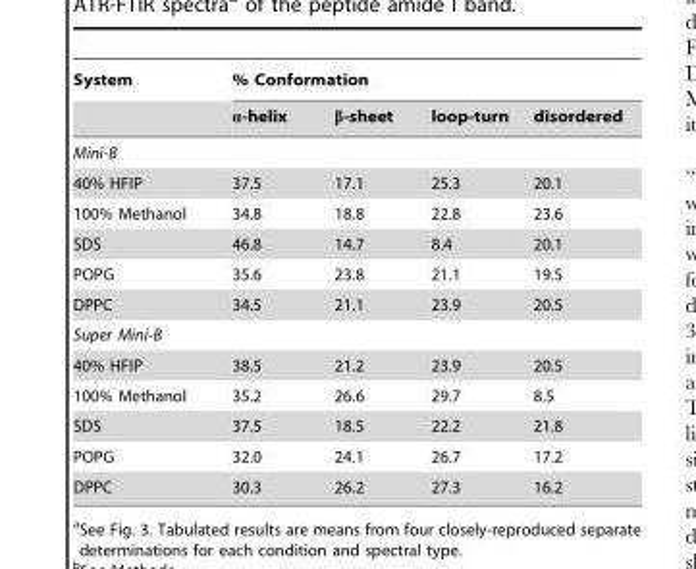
<table><thead><tr><td rowspan="2">System</td><td colspan="4">% Conformation</td></tr><tr><td>α-helix</td><td>β-sheet</td><td>loop-turn</td><td>disordered</td></tr></thead><tbody><tr><td colspan="5">Mini-B</td></tr><tr><td>40% HFIP</td><td>37.5</td><td>17.1</td><td>25.3</td><td>20.1</td></tr><tr><td>100% Methanol</td><td>34.8</td><td>18.8</td><td>22.8</td><td>23.6</td></tr><tr><td>SDS</td><td>46.8</td><td>14.7</td><td>8.4</td><td>20.1</td></tr><tr><td>POPG</td><td>35.6</td><td>23.8</td><td>21.1</td><td>19.5</td></tr><tr><td>DPPC</td><td>34.5</td><td>21.1</td><td>23.9</td><td>20.5</td></tr><tr><td colspan="5">Super Mini-B</td></tr><tr><td>40% HFIP</td><td>38.5</td><td>21.2</td><td>23.9</td><td>20.5</td></tr><tr><td>100% Methanol</td><td>35.2</td><td>26.6</td><td>29.7</td><td>8.5</td></tr><tr><td>SDS</td><td>37.5</td><td>18.5</td><td>22.2</td><td>21.8</td></tr><tr><td>POPG</td><td>32.0</td><td>24.1</td><td>26.7</td><td>17.2</td></tr><tr><td>DPPC</td><td>30.3</td><td>26.2</td><td>27.3</td><td>16.2</td></tr></tbody></table>